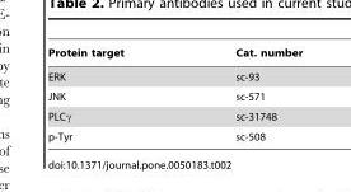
<table><thead><tr><td>Protein target</td><td>Cat. number</td></tr></thead><tbody><tr><td>ERK</td><td>sc-93</td></tr><tr><td>JNK</td><td>sc-571</td></tr><tr><td>PLCγ</td><td>sc-31748</td></tr><tr><td>p-Tyr</td><td>sc-508</td></tr></tbody></table>